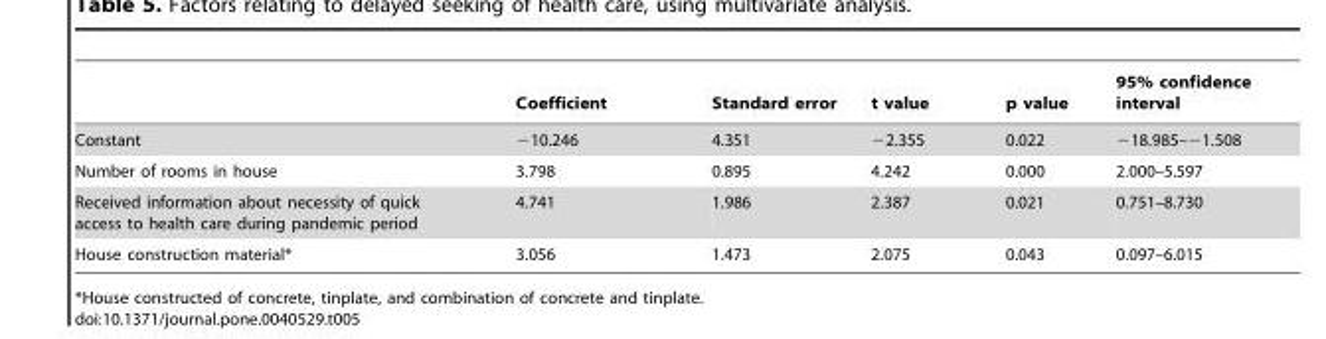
<table><thead><tr><td></td><td>Coefficient</td><td>Standard error</td><td>t value</td><td>p value</td><td>95% confidence interval</td></tr></thead><tbody><tr><td>Constant</td><td>−10.246</td><td>4.351</td><td>−2.355</td><td>0.022</td><td>−18.985–−1.508</td></tr><tr><td>Number of rooms in house</td><td>3.798</td><td>0.895</td><td>4.242</td><td>0.000</td><td>2.000–5.597</td></tr><tr><td>Received information about necessity of quick access to health care during pandemic period</td><td>4.741</td><td>1.986</td><td>2.387</td><td>0.021</td><td>0.751–8.730</td></tr><tr><td>House construction material*</td><td>3.056</td><td>1.473</td><td>2.075</td><td>0.043</td><td>0.097–6.015</td></tr></tbody></table>